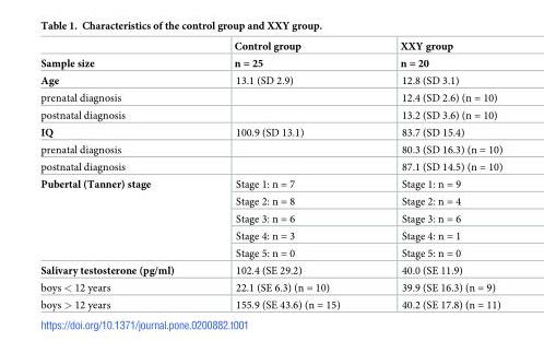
<table><thead><tr><td rowspan="2">Sample size</td><td rowspan="2">Control group n = 25</td><td rowspan="2">XXY group n = 20</td></tr><tr></tr></thead><tbody><tr><td>Age</td><td>13.1 (SD 2.9)</td><td>12.8 (SD 3.1)</td></tr><tr><td>prenatal diagnosis</td><td></td><td>12.4 (SD 2.6) (n = 10)</td></tr><tr><td>postnatal diagnosis</td><td></td><td>13.2 (SD 3.6) (n = 10)</td></tr><tr><td>IQ</td><td>100.9 (SD 13.1)</td><td>83.7 (SD 15.4)</td></tr><tr><td>prenatal diagnosis</td><td></td><td>80.3 (SD 16.3) (n = 10)</td></tr><tr><td>postnatal diagnosis</td><td></td><td>87.1 (SD 14.5) (n = 10)</td></tr><tr><td rowspan="5">Pubertal (Tanner) stage</td><td>Stage 1: n = 7</td><td>Stage 1: n = 9</td></tr><tr><td>Stage 2: n = 8</td><td>Stage 2: n = 4</td></tr><tr><td>Stage 3: n = 6</td><td>Stage 3: n = 6</td></tr><tr><td>Stage 4: n = 3</td><td>Stage 4: n = 1</td></tr><tr><td>Stage 5: n = 0</td><td>Stage 5: n = 0</td></tr><tr><td>Salivary testosterone (pg/ml)</td><td>102.4 (SE 29.2)</td><td>40.0 (SE 11.9)</td></tr><tr><td>boys &lt; 12 years</td><td>22.1 (SE 6.3) (n = 10)</td><td>39.9 (SE 16.3) (n = 9)</td></tr><tr><td>boys &gt; 12 years</td><td>155.9 (SE 43.6) (n = 15)</td><td>40.2 (SE 17.8) (n = 11)</td></tr></tbody></table>